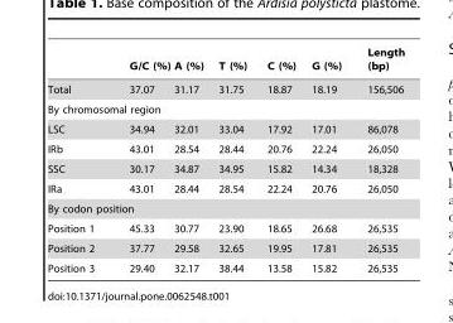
<table><thead><tr><td></td><td>G/C (%)</td><td>A (%)</td><td>T (%)</td><td>C (%)</td><td>G (%)</td><td>Length (bp)</td></tr></thead><tbody><tr><td>Total</td><td>37.07</td><td>31.17</td><td>31.75</td><td>18.87</td><td>18.19</td><td>156,506</td></tr><tr><td colspan="7">By chromosomal region</td></tr><tr><td>LSC</td><td>34.94</td><td>32.01</td><td>33.04</td><td>17.92</td><td>17.01</td><td>86,078</td></tr><tr><td>IRb</td><td>43.01</td><td>28.54</td><td>28.44</td><td>20.76</td><td>22.24</td><td>26,050</td></tr><tr><td>SSC</td><td>30.17</td><td>34.87</td><td>34.95</td><td>15.82</td><td>14.34</td><td>18,328</td></tr><tr><td>IRa</td><td>43.01</td><td>28.44</td><td>28.54</td><td>22.24</td><td>20.76</td><td>26,050</td></tr><tr><td colspan="7">By codon position</td></tr><tr><td>Position 1</td><td>45.33</td><td>30.77</td><td>23.90</td><td>18.65</td><td>26.68</td><td>26,535</td></tr><tr><td>Position 2</td><td>37.77</td><td>29.58</td><td>32.65</td><td>19.95</td><td>17.81</td><td>26,535</td></tr><tr><td>Position 3</td><td>29.40</td><td>32.17</td><td>38.44</td><td>13.58</td><td>15.82</td><td>26,535</td></tr></tbody></table>